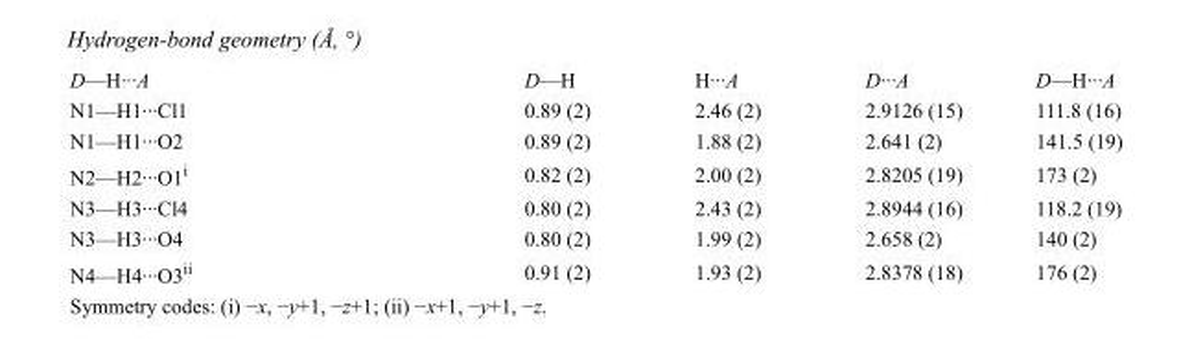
<table><tbody><tr><td>D—H···A</td><td>D—H</td><td>H···A</td><td>D···A</td><td>D—H···A</td></tr><tr><td>N1—H1···Cl1</td><td>0.89 (2)</td><td>2.46 (2)</td><td>2.9126 (15)</td><td>111.8 (16)</td></tr><tr><td>N1—H1···O2</td><td>0.89 (2)</td><td>1.88 (2)</td><td>2.641 (2)</td><td>141.5 (19)</td></tr><tr><td>N2—H2···O1<sup>i</sup></td><td>0.82 (2)</td><td>2.00 (2)</td><td>2.8205 (19)</td><td>173 (2)</td></tr><tr><td>N3—H3···Cl4</td><td>0.80 (2)</td><td>2.43 (2)</td><td>2.8944 (16)</td><td>118.2 (19)</td></tr><tr><td>N3—H3···O4</td><td>0.80 (2)</td><td>1.99 (2)</td><td>2.658 (2)</td><td>140 (2)</td></tr><tr><td>N4—H4···O3<sup>ii</sup></td><td>0.91 (2)</td><td>1.93 (2)</td><td>2.8378 (18)</td><td>176 (2)</td></tr></tbody></table>